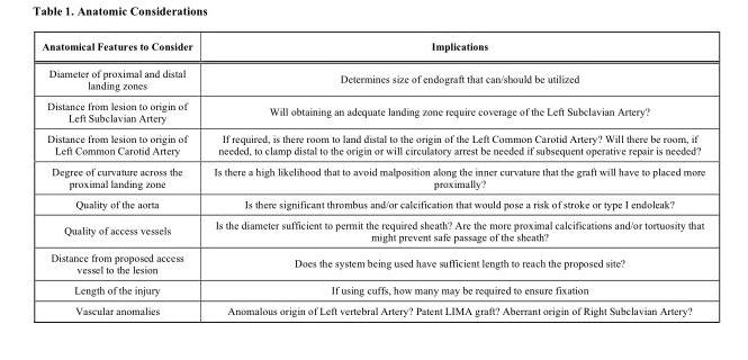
<table><thead><tr><td>Anatomical Features to Consider</td><td>Implications</td></tr></thead><tbody><tr><td>Diameter of proximal and distal landing zones</td><td>Determines size of endograft that can/should be utilized</td></tr><tr><td>Distance from lesion to origin of Left Subclavian Artery</td><td>Will obtaining an adequate landing zone require coverage of the Left Subclavian Artery?</td></tr><tr><td>Distance from lesion to origin of Left Common Carotid Artery</td><td>If required, is there room to land distal to the origin of the Left Common Carotid Artery? Will there be room, if needed, to clamp distal to the origin or will circulatory arrest be needed if subsequent operative repair is needed?</td></tr><tr><td>Degree of curvature across the proximal landing zone</td><td>Is there a high likelihood that to avoid malposition along the inner curvature that the graft will have to placed more proximally?</td></tr><tr><td>Quality of the aorta</td><td>Is there significant thrombus and/or calcification that would pose a risk of stroke or type I endoleak?</td></tr><tr><td>Quality of access vessels</td><td>Is the diameter sufficient to permit the required sheath? Are the more proximal calcifications and/or tortuosity that might prevent safe passage of the sheath?</td></tr><tr><td>Distance from proposed access vessel to the lesion</td><td>Does the system being used have sufficient length to reach the proposed site?</td></tr><tr><td>Length of the injury</td><td>If using cuffs, how many may be required to ensure fixation</td></tr><tr><td>Vascular anomalies</td><td>Anomalous origin of Left vertebral Artery? Patent LIMA graft? Aberrant origin of Right Subclavian Artery?</td></tr></tbody></table>